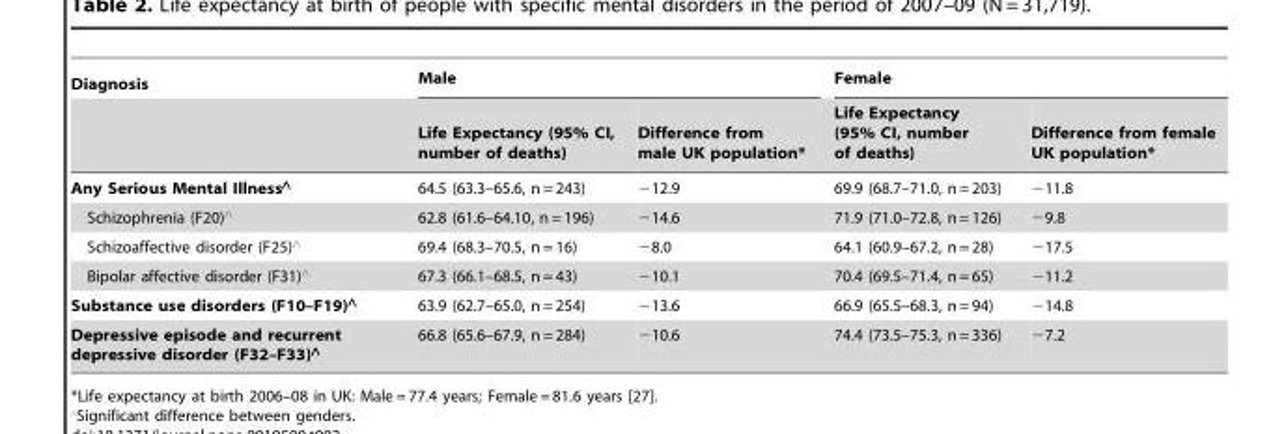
<table><thead><tr><td rowspan="2">Diagnosis</td><td colspan="2">Male</td><td colspan="2">Female</td></tr><tr><td>Life Expectancy (95% CI, number of deaths)</td><td>Difference from male UK population*</td><td>Life Expectancy (95% CI, number of deaths)</td><td>Difference from female UK population*</td></tr></thead><tbody><tr><td>Any Serious Mental Illness‘</td><td>64.5 (63.3–65.6, n = 243)</td><td>−12.9</td><td>69.9 (68.7–71.0, n = 203)</td><td>−11.8</td></tr><tr><td>Schizophrenia (F20)‘</td><td>62.8 (61.6–64.10, n = 196)</td><td>−14.6</td><td>71.9 (71.0–72.8, n = 126)</td><td>−9.8</td></tr><tr><td>Schizoaffective disorder (F25)‘</td><td>69.4 (68.3–70.5, n = 16)</td><td>−8.0</td><td>64.1 (60.9–67.2, n = 28)</td><td>−17.5</td></tr><tr><td>Bipolar affective disorder (F31)‘</td><td>67.3 (66.1–68.5, n = 43)</td><td>−10.1</td><td>70.4 (69.5–71.4, n = 65)</td><td>−11.2</td></tr><tr><td>Substance use disorders (F10–F19)‘</td><td>63.9 (62.7–65.0, n = 254)</td><td>−13.6</td><td>66.9 (65.5–68.3, n = 94)</td><td>−14.8</td></tr><tr><td>Depressive episode and recurrent depressive disorder (F32–F33)‘</td><td>66.8 (65.6–67.9, n = 284)</td><td>−10.6</td><td>74.4 (73.5–75.3, n = 336)</td><td>−7.2</td></tr></tbody></table>